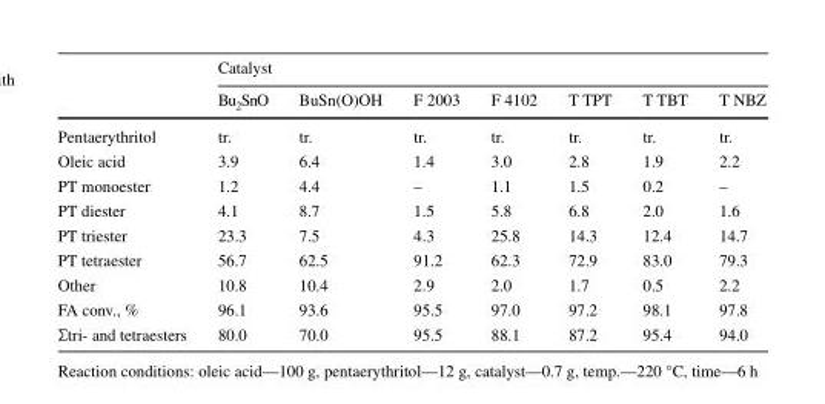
<table><thead><tr><td rowspan="2"></td><td colspan="7">Catalyst</td></tr><tr><td>Bu<sub>2</sub>SnO</td><td>BuSn(O)OH</td><td>F 2003</td><td>F 4102</td><td>T TPT</td><td>T TBT</td><td>T NBZ</td></tr></thead><tbody><tr><td>Pentaerythritol</td><td>tr.</td><td>tr.</td><td>tr.</td><td>tr.</td><td>tr.</td><td>tr.</td><td>tr.</td></tr><tr><td>Oleic acid</td><td>3.9</td><td>6.4</td><td>1.4</td><td>3.0</td><td>2.8</td><td>1.9</td><td>2.2</td></tr><tr><td>PT monoester</td><td>1.2</td><td>4.4</td><td>–</td><td>1.1</td><td>1.5</td><td>0.2</td><td>–</td></tr><tr><td>PT diester</td><td>4.1</td><td>8.7</td><td>1.5</td><td>5.8</td><td>6.8</td><td>2.0</td><td>1.6</td></tr><tr><td>PT triester</td><td>23.3</td><td>7.5</td><td>4.3</td><td>25.8</td><td>14.3</td><td>12.4</td><td>14.7</td></tr><tr><td>PT tetraester</td><td>56.7</td><td>62.5</td><td>91.2</td><td>62.3</td><td>72.9</td><td>83.0</td><td>79.3</td></tr><tr><td>Other</td><td>10.8</td><td>10.4</td><td>2.9</td><td>2.0</td><td>1.7</td><td>0.5</td><td>2.2</td></tr><tr><td>FA conv., %</td><td>96.1</td><td>93.6</td><td>95.5</td><td>97.0</td><td>97.2</td><td>98.1</td><td>97.8</td></tr><tr><td>Ʃtri- and tetraesters</td><td>80.0</td><td>70.0</td><td>95.5</td><td>88.1</td><td>87.2</td><td>95.4</td><td>94.0</td></tr></tbody></table>